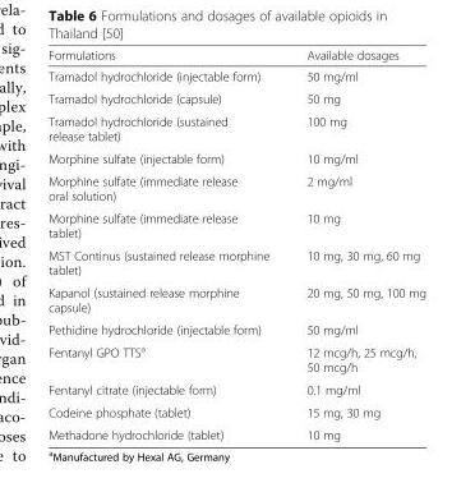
<table><thead><tr><td>Formulations</td><td>Available dosages</td></tr></thead><tbody><tr><td>Tramadol hydrochloride (injectable form)</td><td>50 mg/ml</td></tr><tr><td>Tramadol hydrochloride (capsule)</td><td>50 mg</td></tr><tr><td>Tramadol hydrochloride (sustained release tablet)</td><td>100 mg</td></tr><tr><td>Morphine sulfate (injectable form)</td><td>10 mg/ml</td></tr><tr><td>Morphine sulfate (immediate release oral solution)</td><td>2 mg/ml</td></tr><tr><td>Morphine sulfate (immediate release tablet)</td><td>10 mg</td></tr><tr><td>MST Continus (sustained release morphine tablet)</td><td>10 mg, 30 mg, 60 mg</td></tr><tr><td>Kapanol (sustained release morphine capsule)</td><td>20 mg, 50 mg, 100 mg</td></tr><tr><td>Pethidine hydrochloride (injectable form)</td><td>50 mg/ml</td></tr><tr><td>Fentanyl GPO TTS<sup>a</sup></td><td>12 mcg/h, 25 mcg/h, 50 mcg/h</td></tr><tr><td>Fentanyl citrate (injectable form)</td><td>0.1 mg/ml</td></tr><tr><td>Codeine phosphate (tablet)</td><td>15 mg, 30 mg</td></tr><tr><td>Methadone hydrochloride (tablet)</td><td>10 mg</td></tr></tbody></table>